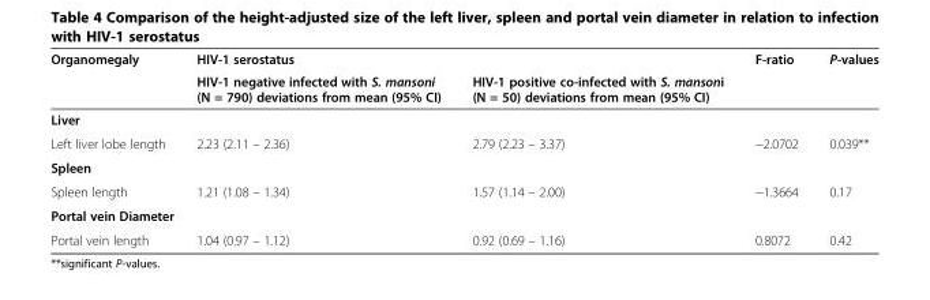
<table><thead><tr><td rowspan="2">Organomegaly</td><td colspan="2">HIV-1 serostatus</td><td rowspan="2">F-ratio</td><td rowspan="2">P-values</td></tr><tr><td>HIV-1 negative infected with S. mansoni (N = 790) deviations from mean (95% CI)</td><td>HIV-1 positive co-infected with S. mansoni (N = 50) deviations from mean (95% CI)</td></tr></thead><tbody><tr><td colspan="5">Liver</td></tr><tr><td>Left liver lobe length</td><td>2.23 (2.11 – 2.36)</td><td>2.79 (2.23 – 3.37)</td><td>−2.0702</td><td>0.039**</td></tr><tr><td colspan="5">Spleen</td></tr><tr><td>Spleen length</td><td>1.21 (1.08 – 1.34)</td><td>1.57 (1.14 – 2.00)</td><td>−1.3664</td><td>0.17</td></tr><tr><td colspan="5">Portal vein Diameter</td></tr><tr><td>Portal vein length</td><td>1.04 (0.97 – 1.12)</td><td>0.92 (0.69 – 1.16)</td><td>0.8072</td><td>0.42</td></tr></tbody></table>